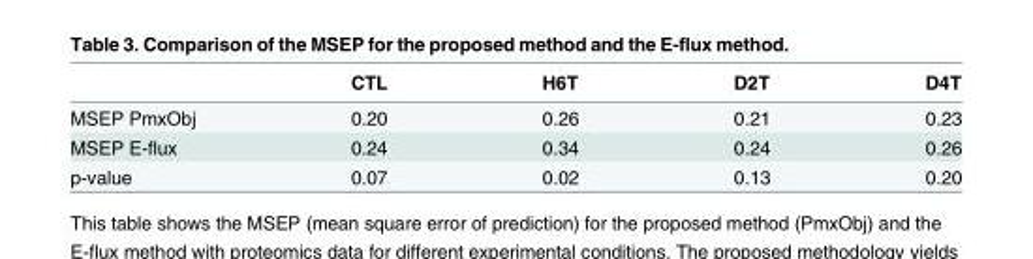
<table><thead><tr><td></td><td>CTL</td><td>H6T</td><td>D2T</td><td>D4T</td></tr></thead><tbody><tr><td>MSEP PmxObj</td><td>0.20</td><td>0.26</td><td>0.21</td><td>0.23</td></tr><tr><td>MSEP E-flux</td><td>0.24</td><td>0.34</td><td>0.24</td><td>0.26</td></tr><tr><td>p-value</td><td>0.07</td><td>0.02</td><td>0.13</td><td>0.20</td></tr></tbody></table>